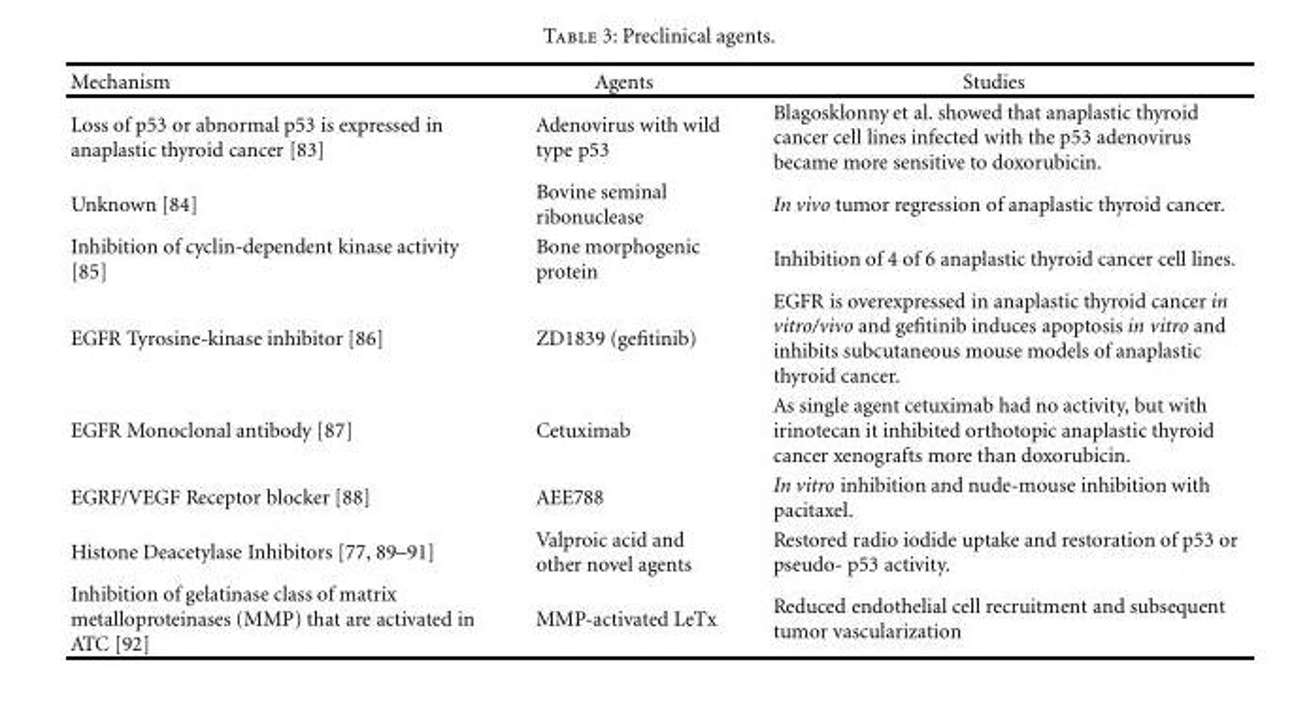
<table><thead><tr><td>Mechanism</td><td>Agents</td><td>Studies</td></tr></thead><tbody><tr><td>Loss of p53 or abnormal p53 is expressed in anaplastic thyroid cancer [83]</td><td>Adenovirus with wild type p53</td><td>Blagosklonny et al. showed that anaplastic thyroid cancer cell lines infected with the p53 adenovirus became more sensitive to doxorubicin.</td></tr><tr><td>Unknown [84]</td><td>Bovine seminal ribonuclease</td><td>In vivo tumor regression of anaplastic thyroid cancer.</td></tr><tr><td>Inhibition of cyclin-dependent kinase activity [85]</td><td>Bone morphogenic protein</td><td>Inhibition of 4 of 6 anaplastic thyroid cancer cell lines.</td></tr><tr><td>EGFR Tyrosine-kinase inhibitor [86]</td><td>ZD1839 (gefitinib)</td><td>EGFR is overexpressed in anaplastic thyroid cancer in vitro/vivo and gefitinib induces apoptosis in vitro and inhibits subcutaneous mouse models of anaplastic thyroid cancer.</td></tr><tr><td>EGFR Monoclonal antibody [87]</td><td>Cetuximab</td><td>As single agent cetuximab had no activity, but with irinotecan it inhibited orthotopic anaplastic thyroid cancer xenografts more than doxorubicin.</td></tr><tr><td>EGRF/VEGF Receptor blocker [88]</td><td>AEE788</td><td>In vitro inhibition and nude-mouse inhibition with pacitaxel.</td></tr><tr><td>Histone Deacetylase Inhibitors [77, 89–91]</td><td>Valproic acid and other novel agents</td><td>Restored radio iodide uptake and restoration of p53 or pseudo- p53 activity.</td></tr><tr><td>Inhibition of gelatinase class of matrix metalloproteinases (MMP) that are activated in ATC [92]</td><td>MMP-activated LeTx</td><td>Reduced endothelial cell recruitment and subsequent tumor vascularization</td></tr></tbody></table>